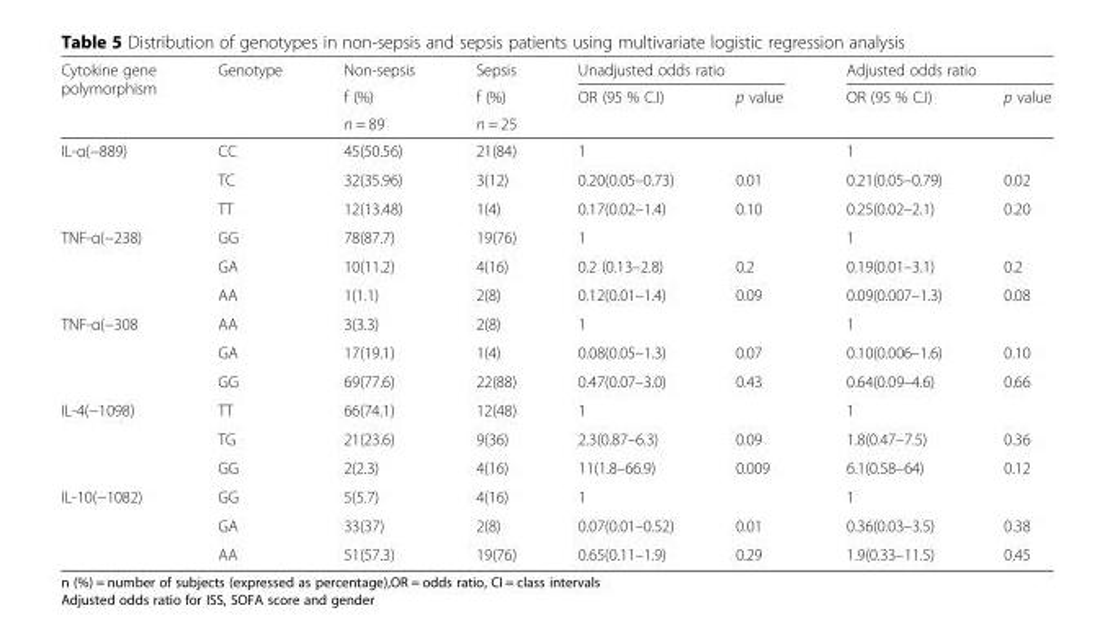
<table><thead><tr><td rowspan="3">Cytokine gene polymorphism</td><td rowspan="3">Genotype</td><td rowspan="3">Non-sepsis f (%) n = 89</td><td rowspan="3">Sepsis f (%) n = 25</td><td colspan="2">Unadjusted odds ratio</td><td colspan="2">Adjusted odds ratio</td></tr><tr><td rowspan="2">OR (95 % C.I)</td><td rowspan="2">p value</td><td rowspan="2">OR (95 % C.I)</td><td rowspan="2">p value</td></tr><tr></tr></thead><tbody><tr><td rowspan="3">IL-α(−889)</td><td>CC</td><td>45(50.56)</td><td>21(84)</td><td>1</td><td></td><td>1</td><td></td></tr><tr><td>TC</td><td>32(35.96)</td><td>3(12)</td><td>0.20(0.05–0.73)</td><td>0.01</td><td>0.21(0.05–0.79)</td><td>0.02</td></tr><tr><td>TT</td><td>12(13.48)</td><td>1(4)</td><td>0.17(0.02–1.4)</td><td>0.10</td><td>0.25(0.02–2.1)</td><td>0.20</td></tr><tr><td rowspan="3">TNF-α(−238)</td><td>GG</td><td>78(87.7)</td><td>19(76)</td><td>1</td><td></td><td>1</td><td></td></tr><tr><td>GA</td><td>10(11.2)</td><td>4(16)</td><td>0.2 (0.13–2.8)</td><td>0.2</td><td>0.19(0.01–3.1)</td><td>0.2</td></tr><tr><td>AA</td><td>1(1.1)</td><td>2(8)</td><td>0.12(0.01–1.4)</td><td>0.09</td><td>0.09(0.007–1.3)</td><td>0.08</td></tr><tr><td rowspan="3">TNF-α(−308</td><td>AA</td><td>3(3.3)</td><td>2(8)</td><td>1</td><td></td><td>1</td><td></td></tr><tr><td>GA</td><td>17(19.1)</td><td>1(4)</td><td>0.08(0.05–1.3)</td><td>0.07</td><td>0.10(0.006–1.6)</td><td>0.10</td></tr><tr><td>GG</td><td>69(77.6)</td><td>22(88)</td><td>0.47(0.07–3.0)</td><td>0.43</td><td>0.64(0.09–4.6)</td><td>0.66</td></tr><tr><td rowspan="3">IL-4(−1098)</td><td>TT</td><td>66(74.1)</td><td>12(48)</td><td>1</td><td></td><td>1</td><td></td></tr><tr><td>TG</td><td>21(23.6)</td><td>9(36)</td><td>2.3(0.87–6.3)</td><td>0.09</td><td>1.8(0.47–7.5)</td><td>0.36</td></tr><tr><td>GG</td><td>2(2.3)</td><td>4(16)</td><td>11(1.8–66.9)</td><td>0.009</td><td>6.1(0.58–64)</td><td>0.12</td></tr><tr><td rowspan="3">IL-10(−1082)</td><td>GG</td><td>5(5.7)</td><td>4(16)</td><td>1</td><td></td><td>1</td><td></td></tr><tr><td>GA</td><td>33(37)</td><td>2(8)</td><td>0.07(0.01–0.52)</td><td>0.01</td><td>0.36(0.03–3.5)</td><td>0.38</td></tr><tr><td>AA</td><td>51(57.3)</td><td>19(76)</td><td>0.65(0.11–1.9)</td><td>0.29</td><td>1.9(0.33–11.5)</td><td>0.45</td></tr></tbody></table>